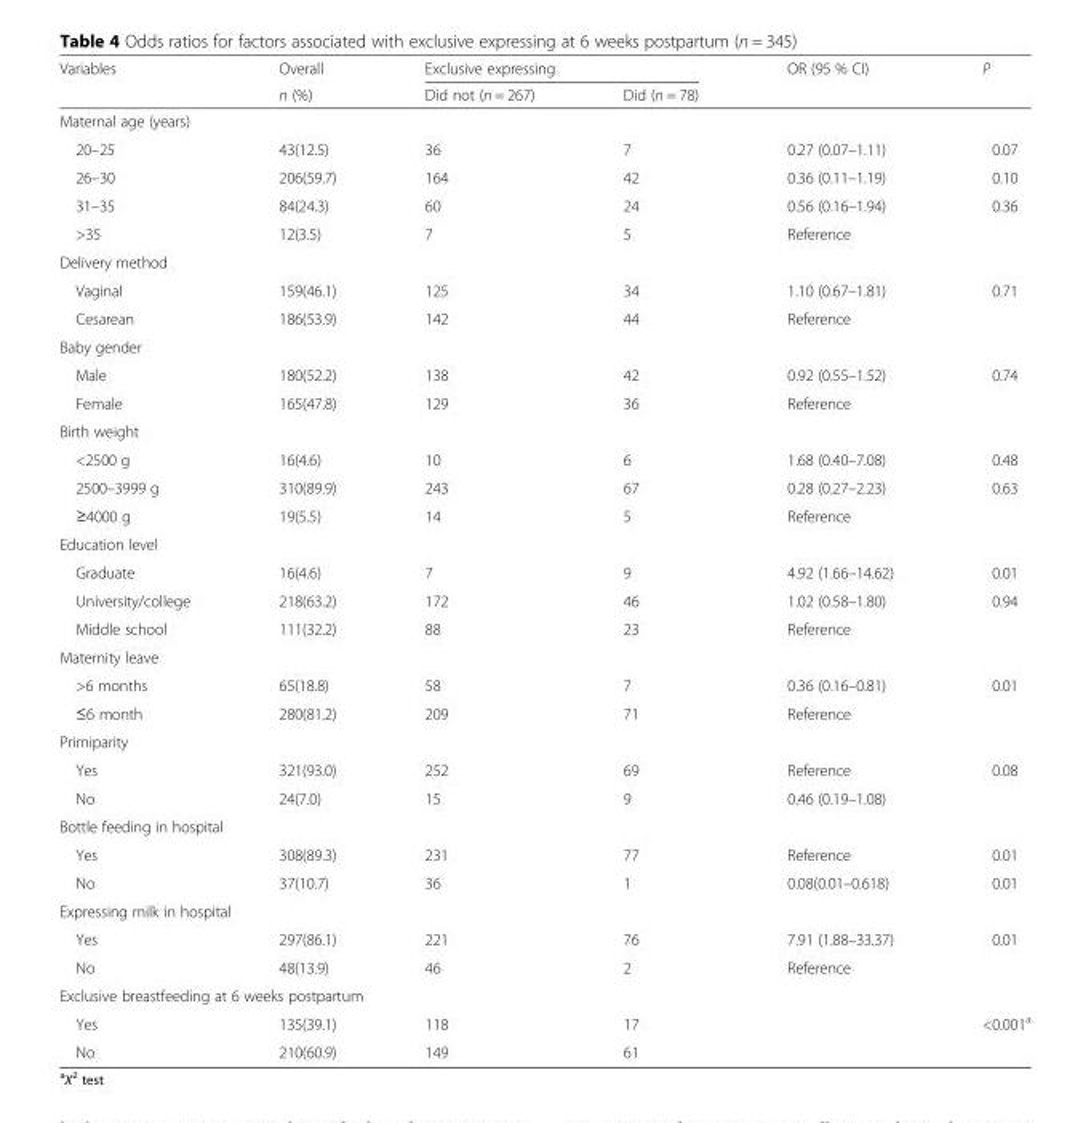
<table><thead><tr><td rowspan="2">Variables</td><td rowspan="2">Overall n (%)</td><td colspan="2">Exclusive expressing</td><td rowspan="2">OR (95 % CI)</td><td rowspan="2">P</td></tr><tr><td>Did not (n = 267)</td><td>Did (n = 78)</td></tr></thead><tbody><tr><td colspan="6">Maternal age (years)</td></tr><tr><td>20–25</td><td>43(12.5)</td><td>36</td><td>7</td><td>0.27 (0.07–1.11)</td><td>0.07</td></tr><tr><td>26–30</td><td>206(59.7)</td><td>164</td><td>42</td><td>0.36 (0.11–1.19)</td><td>0.10</td></tr><tr><td>31–35</td><td>84(24.3)</td><td>60</td><td>24</td><td>0.56 (0.16–1.94)</td><td>0.36</td></tr><tr><td>&gt;35</td><td>12(3.5)</td><td>7</td><td>5</td><td>Reference</td><td></td></tr><tr><td colspan="6">Delivery method</td></tr><tr><td>Vaginal</td><td>159(46.1)</td><td>125</td><td>34</td><td>1.10 (0.67–1.81)</td><td>0.71</td></tr><tr><td>Cesarean</td><td>186(53.9)</td><td>142</td><td>44</td><td>Reference</td><td></td></tr><tr><td colspan="6">Baby gender</td></tr><tr><td>Male</td><td>180(52.2)</td><td>138</td><td>42</td><td>0.92 (0.55–1.52)</td><td>0.74</td></tr><tr><td>Female</td><td>165(47.8)</td><td>129</td><td>36</td><td>Reference</td><td></td></tr><tr><td colspan="6">Birth weight</td></tr><tr><td>&lt;2500 g</td><td>16(4.6)</td><td>10</td><td>6</td><td>1.68 (0.40–7.08)</td><td>0.48</td></tr><tr><td>2500–3999 g</td><td>310(89.9)</td><td>243</td><td>67</td><td>0.28 (0.27–2.23)</td><td>0.63</td></tr><tr><td>≥4000 g</td><td>19(5.5)</td><td>14</td><td>5</td><td>Reference</td><td></td></tr><tr><td colspan="6">Education level</td></tr><tr><td>Graduate</td><td>16(4.6)</td><td>7</td><td>9</td><td>4.92 (1.66–14.62)</td><td>0.01</td></tr><tr><td>University/college</td><td>218(63.2)</td><td>172</td><td>46</td><td>1.02 (0.58–1.80)</td><td>0.94</td></tr><tr><td>Middle school</td><td>111(32.2)</td><td>88</td><td>23</td><td>Reference</td><td></td></tr><tr><td colspan="6">Maternity leave</td></tr><tr><td>&gt;6 months</td><td>65(18.8)</td><td>58</td><td>7</td><td>0.36 (0.16–0.81)</td><td>0.01</td></tr><tr><td>≤6 month</td><td>280(81.2)</td><td>209</td><td>71</td><td>Reference</td><td></td></tr><tr><td colspan="6">Primiparity</td></tr><tr><td>Yes</td><td>321(93.0)</td><td>252</td><td>69</td><td>Reference</td><td>0.08</td></tr><tr><td>No</td><td>24(7.0)</td><td>15</td><td>9</td><td>0.46 (0.19–1.08)</td><td></td></tr><tr><td colspan="6">Bottle feeding in hospital</td></tr><tr><td>Yes</td><td>308(89.3)</td><td>231</td><td>77</td><td>Reference</td><td>0.01</td></tr><tr><td>No</td><td>37(10.7)</td><td>36</td><td>1</td><td>0.08(0.01–0.618)</td><td>0.01</td></tr><tr><td colspan="6">Expressing milk in hospital</td></tr><tr><td>Yes</td><td>297(86.1)</td><td>221</td><td>76</td><td>7.91 (1.88–33.37)</td><td>0.01</td></tr><tr><td>No</td><td>48(13.9)</td><td>46</td><td>2</td><td>Reference</td><td></td></tr><tr><td colspan="6">Exclusive breastfeeding at 6 weeks postpartum</td></tr><tr><td>Yes</td><td>135(39.1)</td><td>118</td><td>17</td><td></td><td>&lt;0.001<sup>a</sup></td></tr><tr><td>No</td><td>210(60.9)</td><td>149</td><td>61</td><td></td><td></td></tr></tbody></table>